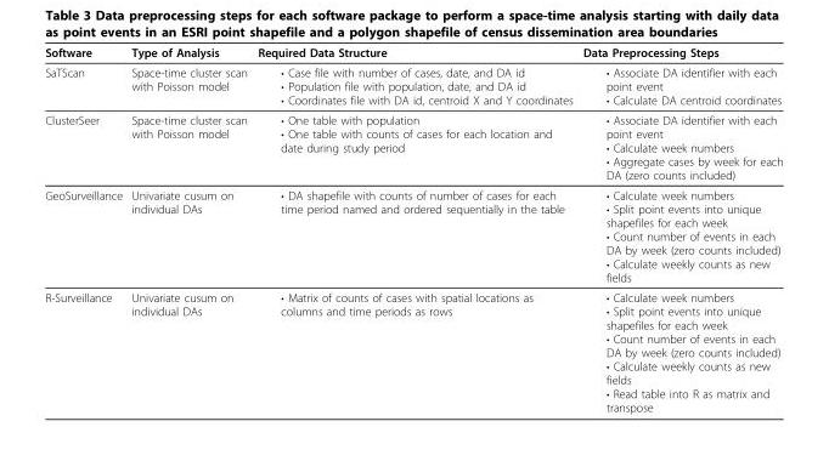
<table><thead><tr><td>Software</td><td>Type of Analysis</td><td>Required Data Structure</td><td>Data Preprocessing Steps</td></tr></thead><tbody><tr><td>SaTScan</td><td>Space-time cluster scan with Poisson model</td><td>• Case file with number of cases, date, and DA id • Population file with population, date, and DA id • Coordinates file with DA id, centroid X and Y coordinates</td><td>• Associate DA identifier with each point event • Calculate DA centroid coordinates</td></tr><tr><td>ClusterSeer</td><td>Space-time cluster scan with Poisson model</td><td>• One table with population • One table with counts of cases for each location and date during study period</td><td>• Associate DA identifier with each point event • Calculate week numbers • Aggregate cases by week for each DA (zero counts included)</td></tr><tr><td>GeoSurveillance</td><td>Univariate cusum on individual DAs</td><td>• DA shapefile with counts of number of cases for each time period named and ordered sequentially in the table</td><td>• Calculate week numbers • Split point events into unique shapefiles for each week • Count number of events in each DA by week (zero counts included) • Calculate weekly counts as new fields</td></tr><tr><td>R-Surveillance</td><td>Univariate cusum on individual DAs</td><td>• Matrix of counts of cases with spatial locations as columns and time periods as rows</td><td>• Calculate week numbers • Split point events into unique shapefiles for each week • Count number of events in each DA by week (zero counts included) • Calculate weekly counts as new fields • Read table into R as matrix and transpose</td></tr></tbody></table>